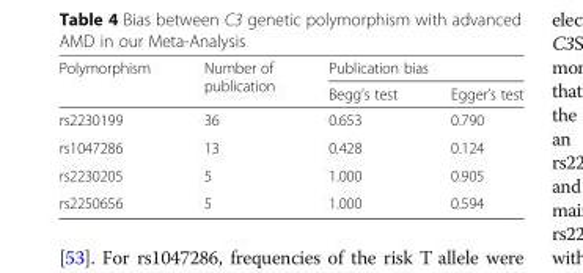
<table><thead><tr><td rowspan="2">Polymorphism</td><td rowspan="2">Number of publication</td><td colspan="2">Publication bias</td></tr><tr><td>Begg’s test</td><td>Egger’s test</td></tr></thead><tbody><tr><td>rs2230199</td><td>36</td><td>0.653</td><td>0.790</td></tr><tr><td>rs1047286</td><td>13</td><td>0.428</td><td>0.124</td></tr><tr><td>rs2230205</td><td>5</td><td>1.000</td><td>0.905</td></tr><tr><td>rs2250656</td><td>5</td><td>1.000</td><td>0.594</td></tr></tbody></table>